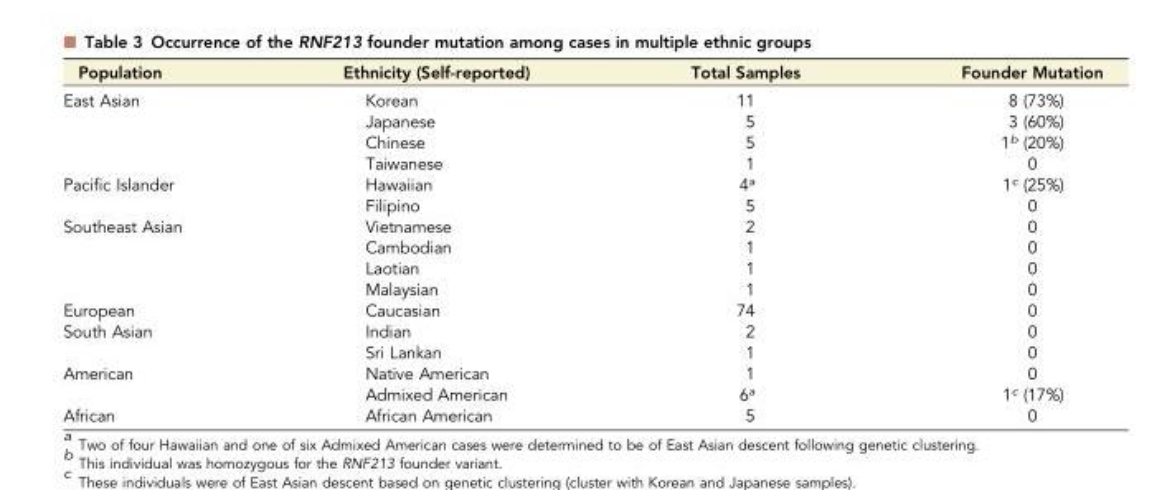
<table><thead><tr><td>Population</td><td>Ethnicity (Self-reported)</td><td>Total Samples</td><td>Founder Mutation</td></tr></thead><tbody><tr><td rowspan="4">East Asian</td><td>Korean</td><td>11</td><td>8 (73%)</td></tr><tr><td>Japanese</td><td>5</td><td>3 (60%)</td></tr><tr><td>Chinese</td><td>5</td><td>1<sup>b</sup> (20%)</td></tr><tr><td>Taiwanese</td><td>1</td><td>0</td></tr><tr><td rowspan="2">Pacific Islander</td><td>Hawaiian</td><td>4<sup>a</sup></td><td>1<sup>c</sup> (25%)</td></tr><tr><td>Filipino</td><td>5</td><td>0</td></tr><tr><td rowspan="4">Southeast Asian</td><td>Vietnamese</td><td>2</td><td>0</td></tr><tr><td>Cambodian</td><td>1</td><td>0</td></tr><tr><td>Laotian</td><td>1</td><td>0</td></tr><tr><td>Malaysian</td><td>1</td><td>0</td></tr><tr><td>European</td><td>Caucasian</td><td>74</td><td>0</td></tr><tr><td rowspan="2">South Asian</td><td>Indian</td><td>2</td><td>0</td></tr><tr><td>Sri Lankan</td><td>1</td><td>0</td></tr><tr><td rowspan="2">American</td><td>Native American</td><td>1</td><td>0</td></tr><tr><td>Admixed American</td><td>6<sup>a</sup></td><td>1<sup>c</sup> (17%)</td></tr><tr><td>African</td><td>African American</td><td>5</td><td>0</td></tr></tbody></table>